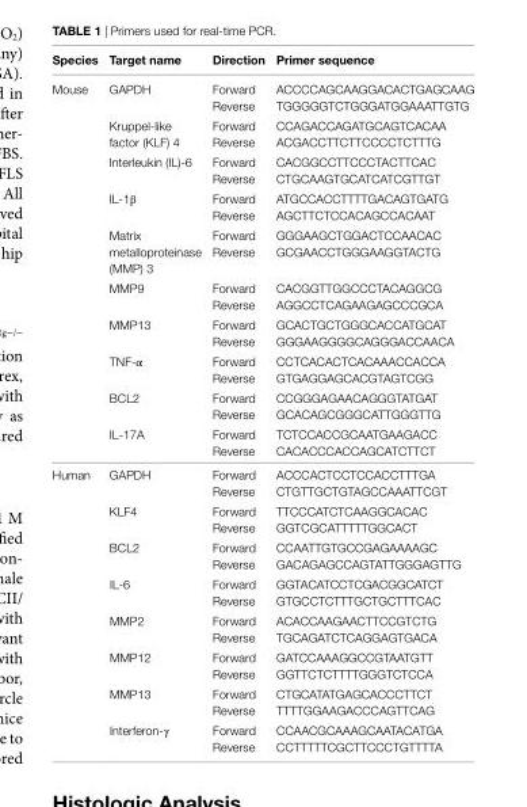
<table><thead><tr><td>species</td><td>Target name</td><td>Direction</td><td>Primer sequence</td></tr></thead><tbody><tr><td rowspan="20">Mouse</td><td rowspan="2">GAPDH</td><td>Forward</td><td>ACCCCAGCAAGGACACTGAGCAAG</td></tr><tr><td>Reverse</td><td>TGGGGGTCTGGGATGGAAATTGTG</td></tr><tr><td rowspan="2">Kruppel-like factor (KLF) 4</td><td>Forward</td><td>CCAGACCAGATGCAGTCACAA</td></tr><tr><td>Reverse</td><td>ACGACCTTCTTCCCCTCTTTG</td></tr><tr><td rowspan="2">Interleukin (IL)-6</td><td>Forward</td><td>CACGGCCTTCCCTACTTCAC</td></tr><tr><td>Reverse</td><td>CTGCAAGTGCATCATCGTTGT</td></tr><tr><td rowspan="2">IL-1β</td><td>Forward</td><td>ATGCCACCTTTTGACAGTGATG</td></tr><tr><td>Reverse</td><td>AGCTTCTCCACAGCCACAAT</td></tr><tr><td rowspan="2">Matrix metalloproteinase (MMP) 3</td><td>Forward</td><td>GGGAAGCTGGACTCCAACAC</td></tr><tr><td>Reverse</td><td>GCGAACCTGGGAAGGTACTG</td></tr><tr><td rowspan="2">MMP9</td><td>Forward</td><td>CACGGTTGGCCCTACAGGCG</td></tr><tr><td>Reverse</td><td>AGGCCTCAGAAGAGCCCGCA</td></tr><tr><td rowspan="2">MMP13</td><td>Forward</td><td>GCACTGCTGGGCACCATGCAT</td></tr><tr><td>Reverse</td><td>GGGAAGGGGCAGGGACCAACA</td></tr><tr><td rowspan="2">TNF-α</td><td>Forward</td><td>CCTCACACTCACAAACCACCA</td></tr><tr><td>Reverse</td><td>GTGAGGAGCACGTAGTCGG</td></tr><tr><td rowspan="2">BCL2</td><td>Forward</td><td>CCGGGAGAACAGGGTATGAT</td></tr><tr><td>Reverse</td><td>GCACAGCGGGCATTGGGTTG</td></tr><tr><td rowspan="2">IL-17A</td><td>Forward</td><td>TCTCCACCGCAATGAAGACC</td></tr><tr><td>Reverse</td><td>CACACCCACCAGCATCTTCT</td></tr><tr><td rowspan="16">Human</td><td rowspan="2">GAPDH</td><td>Forward</td><td>ACCCACTCCTCCACCTTTGA</td></tr><tr><td>Reverse</td><td>CTGTTGCTGTAGCCAAATTCGT</td></tr><tr><td rowspan="2">KLF4</td><td>Forward</td><td>TTCCCATCTCAAGGCACAC</td></tr><tr><td>Reverse</td><td>GGTCGCATTTTTGGCACT</td></tr><tr><td rowspan="2">BCL2</td><td>Forward</td><td>CCAATTGTGCCGAGAAAAGC</td></tr><tr><td>Reverse</td><td>GACAGAGCCAGTATTGGGAGTTG</td></tr><tr><td rowspan="2">IL-6</td><td>Forward</td><td>GGTACATCCTCGACGGCATCT</td></tr><tr><td>Reverse</td><td>GTGCCTCTTTGCTGCTTTCAC</td></tr><tr><td rowspan="2">MMP2</td><td>Forward</td><td>ACACCAAGAACTTCCGTCTG</td></tr><tr><td>Reverse</td><td>TGCAGATCTCAGGAGTGACA</td></tr><tr><td rowspan="2">MMP12</td><td>Forward</td><td>GATCCAAAGGCCGTAATGTT</td></tr><tr><td>Reverse</td><td>GGTTCTCTTTTGGGTCTCCA</td></tr><tr><td rowspan="2">MMP13</td><td>Forward</td><td>CTGCATATGAGCACCCTTCT</td></tr><tr><td>Reverse</td><td>TTTTGGAAGACCCAGTTCAG</td></tr><tr><td rowspan="2">Interferon-γ</td><td>Forward</td><td>CCAACGCAAAGCAATACATGA</td></tr><tr><td>Reverse</td><td>CCTTTTTCGCTTCCCTGTTTTA</td></tr></tbody></table>